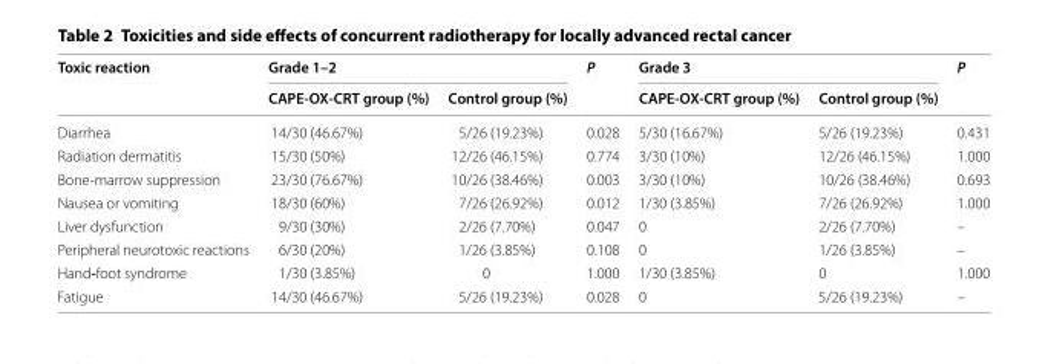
<table><thead><tr><td rowspan="2">Toxic reaction</td><td colspan="2">Grade 1–2</td><td rowspan="2">P</td><td colspan="2">Grade 3</td><td rowspan="2">P</td></tr><tr><td>CAPE-OX-CRT group (%)</td><td>Control group (%)</td><td>CAPE-OX-CRT group (%)</td><td>Control group (%)</td></tr></thead><tbody><tr><td>Diarrhea</td><td>14/30 (46.67%)</td><td>5/26 (19.23%)</td><td>0.028</td><td>5/30 (16.67%)</td><td>5/26 (19.23%)</td><td>0.431</td></tr><tr><td>Radiation dermatitis</td><td>15/30 (50%)</td><td>12/26 (46.15%)</td><td>0.774</td><td>3/30 (10%)</td><td>12/26 (46.15%)</td><td>1.000</td></tr><tr><td>Bone-marrow suppression</td><td>23/30 (76.67%)</td><td>10/26 (38.46%)</td><td>0.003</td><td>3/30 (10%)</td><td>10/26 (38.46%)</td><td>0.693</td></tr><tr><td>Nausea or vomiting</td><td>18/30 (60%)</td><td>7/26 (26.92%)</td><td>0.012</td><td>1/30 (3.85%)</td><td>7/26 (26.92%)</td><td>1.000</td></tr><tr><td>Liver dysfunction</td><td>9/30 (30%)</td><td>2/26 (7.70%)</td><td>0.047</td><td>0</td><td>2/26 (7.70%)</td><td>–</td></tr><tr><td>Peripheral neurotoxic reactions</td><td>6/30 (20%)</td><td>1/26 (3.85%)</td><td>0.108</td><td>0</td><td>1/26 (3.85%)</td><td>–</td></tr><tr><td>Hand-foot syndrome</td><td>1/30 (3.85%)</td><td>0</td><td>1.000</td><td>1/30 (3.85%)</td><td>0</td><td>1.000</td></tr><tr><td>Fatigue</td><td>14/30 (46.67%)</td><td>5/26 (19.23%)</td><td>0.028</td><td>0</td><td>5/26 (19.23%)</td><td>–</td></tr></tbody></table>